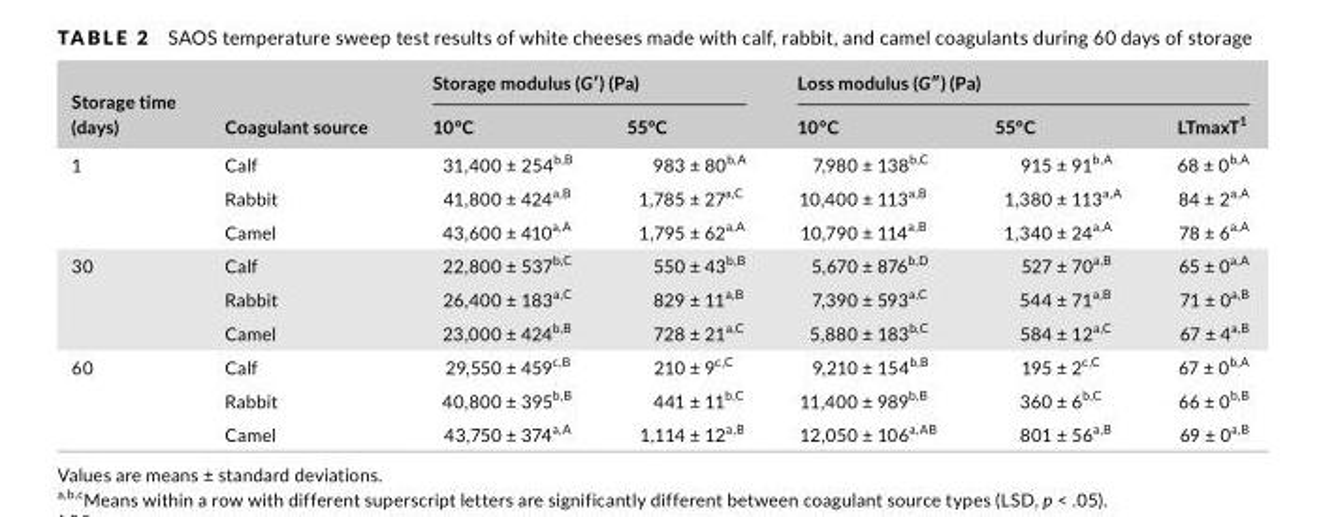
<table><thead><tr><td rowspan="2">Storage time (days)</td><td rowspan="2">Coagulant source</td><td colspan="2">Storage modulus (G′) (Pa)</td><td colspan="3">Loss modulus (G″) (Pa)</td></tr><tr><td>10°C</td><td>55°C</td><td>10°C</td><td>55°C</td><td>LTmaxT1</td></tr></thead><tbody><tr><td rowspan="3">1</td><td>Calf</td><td>31,400 ± 254<sup>b,B</sup></td><td>983 ± 80<sup>b,A</sup></td><td>7,980 ± 138<sup>b,C</sup></td><td>915 ± 91<sup>b,A</sup></td><td>68 ± 0<sup>b,A</sup></td></tr><tr><td>Rabbit</td><td>41,800 ± 424<sup>a,B</sup></td><td>1,785 ± 27<sup>a,C</sup></td><td>10,400 ± 113<sup>a,B</sup></td><td>1,380 ± 113<sup>a,A</sup></td><td>84 ± 2<sup>a,A</sup></td></tr><tr><td>Camel</td><td>43,600 ± 410<sup>a,A</sup></td><td>1,795 ± 62<sup>a,A</sup></td><td>10,790 ± 114<sup>a,B</sup></td><td>1,340 ± 24<sup>a,A</sup></td><td>78 ± 6<sup>a,A</sup></td></tr><tr><td rowspan="3">30</td><td>Calf</td><td>22,800 ± 537<sup>b,C</sup></td><td>550 ± 43<sup>b,B</sup></td><td>5,670 ± 876<sup>b,D</sup></td><td>527 ± 70<sup>a,B</sup></td><td>65 ± 0<sup>a,A</sup></td></tr><tr><td>Rabbit</td><td>26,400 ± 183<sup>a,C</sup></td><td>829 ± 11<sup>a,B</sup></td><td>7,390 ± 593<sup>a,C</sup></td><td>544 ± 71<sup>a,B</sup></td><td>71 ± 0<sup>a,B</sup></td></tr><tr><td>Camel</td><td>23,000 ± 424<sup>b,B</sup></td><td>728 ± 21<sup>a,C</sup></td><td>5,880 ± 183<sup>b,C</sup></td><td>584 ± 12<sup>a,C</sup></td><td>67 ± 4<sup>a,B</sup></td></tr><tr><td rowspan="3">60</td><td>Calf</td><td>29,550 ± 459<sup>c,B</sup></td><td>210 ± 9<sup>c,C</sup></td><td>9,210 ± 154<sup>b,B</sup></td><td>195 ± 2<sup>c,C</sup></td><td>67 ± 0<sup>b,A</sup></td></tr><tr><td>Rabbit</td><td>40,800 ± 395<sup>b,B</sup></td><td>441 ± 11<sup>b,C</sup></td><td>11,400 ± 989<sup>b,B</sup></td><td>360 ± 6<sup>b,C</sup></td><td>66 ± 0<sup>b,B</sup></td></tr><tr><td>Camel</td><td>43,750 ± 374<sup>a,A</sup></td><td>1,114 ± 12<sup>a,B</sup></td><td>12,050 ± 106<sup>a,AB</sup></td><td>801 ± 56<sup>a,B</sup></td><td>69 ± 0<sup>a,B</sup></td></tr></tbody></table>